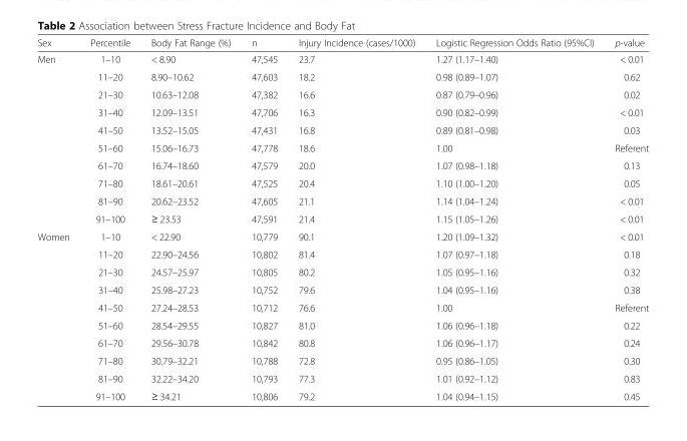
<table><thead><tr><td>Sex</td><td>Percentile</td><td>Body Fat Range (%)</td><td>n</td><td>Injury Incidence (cases/1000)</td><td>Logistic Regression Odds Ratio (95%CI)</td><td>p-value</td></tr></thead><tbody><tr><td rowspan="10">Men</td><td>1–10</td><td>&lt; 8.90</td><td>47,545</td><td>23.7</td><td>1.27 (1.17–1.40)</td><td>&lt; 0.01</td></tr><tr><td>11–20</td><td>8.90–10.62</td><td>47,603</td><td>18.2</td><td>0.98 (0.89–1.07)</td><td>0.62</td></tr><tr><td>21–30</td><td>10.63–12.08</td><td>47,382</td><td>16.6</td><td>0.87 (0.79–0.96)</td><td>0.02</td></tr><tr><td>31–40</td><td>12.09–13.51</td><td>47,706</td><td>16.3</td><td>0.90 (0.82–0.99)</td><td>&lt; 0.01</td></tr><tr><td>41–50</td><td>13.52–15.05</td><td>47,431</td><td>16.8</td><td>0.89 (0.81–0.98)</td><td>0.03</td></tr><tr><td>51–60</td><td>15.06–16.73</td><td>47,778</td><td>18.6</td><td>1.00</td><td>Referent</td></tr><tr><td>61–70</td><td>16.74–18.60</td><td>47,579</td><td>20.0</td><td>1.07 (0.98–1.18)</td><td>0.13</td></tr><tr><td>71–80</td><td>18.61–20.61</td><td>47,525</td><td>20.4</td><td>1.10 (1.00–1.20)</td><td>0.05</td></tr><tr><td>81–90</td><td>20.62–23.52</td><td>47,605</td><td>21.1</td><td>1.14 (1.04–1.24)</td><td>&lt; 0.01</td></tr><tr><td>91–100</td><td>≥ 23.53</td><td>47,591</td><td>21.4</td><td>1.15 (1.05–1.26)</td><td>&lt; 0.01</td></tr><tr><td rowspan="10">Women</td><td>1–10</td><td>&lt; 22.90</td><td>10,779</td><td>90.1</td><td>1.20 (1.09–1.32)</td><td>&lt; 0.01</td></tr><tr><td>11–20</td><td>22.90–24.56</td><td>10,802</td><td>81.4</td><td>1.07 (0.97–1.18)</td><td>0.18</td></tr><tr><td>21–30</td><td>24.57–25.97</td><td>10,805</td><td>80.2</td><td>1.05 (0.95–1.16)</td><td>0.32</td></tr><tr><td>31–40</td><td>25.98–27.23</td><td>10,752</td><td>79.6</td><td>1.04 (0.95–1.16)</td><td>0.38</td></tr><tr><td>41–50</td><td>27.24–28.53</td><td>10,712</td><td>76.6</td><td>1.00</td><td>Referent</td></tr><tr><td>51–60</td><td>28.54–29.55</td><td>10,827</td><td>81.0</td><td>1.06 (0.96–1.18)</td><td>0.22</td></tr><tr><td>61–70</td><td>29.56–30.78</td><td>10,842</td><td>80.8</td><td>1.06 (0.96–1.17)</td><td>0.24</td></tr><tr><td>71–80</td><td>30.79–32.21</td><td>10,788</td><td>72.8</td><td>0.95 (0.86–1.05)</td><td>0.30</td></tr><tr><td>81–90</td><td>32.22–34.20</td><td>10,793</td><td>77.3</td><td>1.01 (0.92–1.12)</td><td>0.83</td></tr><tr><td>91–100</td><td>≥ 34.21</td><td>10,806</td><td>79.2</td><td>1.04 (0.94–1.15)</td><td>0.45</td></tr></tbody></table>